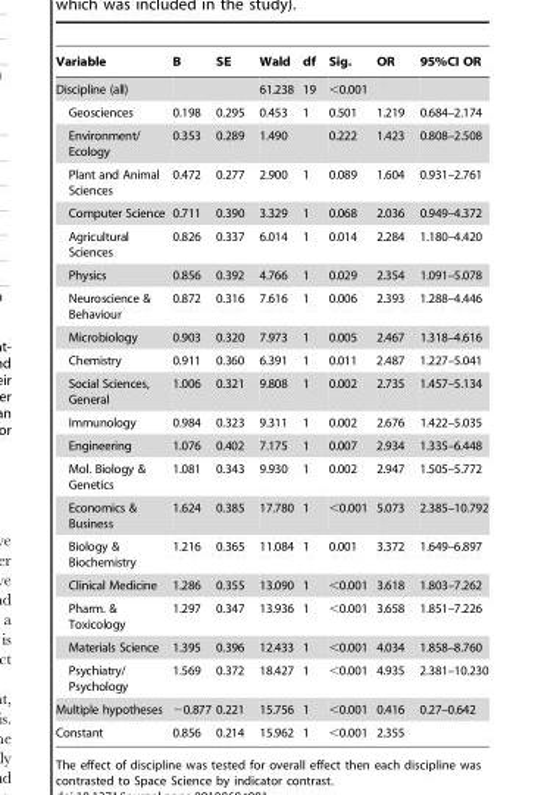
<table><thead><tr><td>Variable</td><td>B</td><td>SE</td><td>Wald</td><td>df</td><td>Sig.</td><td>OR</td><td>95%CI OR</td></tr></thead><tbody><tr><td>Discipline (all)</td><td></td><td></td><td>61.238</td><td>19</td><td>&lt;0.001</td><td></td><td></td></tr><tr><td>Geosciences</td><td>0.198</td><td>0.295</td><td>0.453</td><td>1</td><td>0.501</td><td>1.219</td><td>0.684–2.174</td></tr><tr><td>Environment/ Ecology</td><td>0.353</td><td>0.289</td><td>1.490</td><td></td><td>0.222</td><td>1.423</td><td>0.808–2.508</td></tr><tr><td>Plant and Animal Sciences</td><td>0.472</td><td>0.277</td><td>2.900</td><td>1</td><td>0.089</td><td>1.604</td><td>0.931–2.761</td></tr><tr><td>Computer Science</td><td>0.711</td><td>0.390</td><td>3.329</td><td>1</td><td>0.068</td><td>2.036</td><td>0.949–4.372</td></tr><tr><td>Agricultural Sciences</td><td>0.826</td><td>0.337</td><td>6.014</td><td>1</td><td>0.014</td><td>2.284</td><td>1.180–4.420</td></tr><tr><td>Physics</td><td>0.856</td><td>0.392</td><td>4.766</td><td>1</td><td>0.029</td><td>2.354</td><td>1.091–5.078</td></tr><tr><td>Neuroscience &amp; Behaviour</td><td>0.872</td><td>0.316</td><td>7.616</td><td>1</td><td>0.006</td><td>2.393</td><td>1.288–4.446</td></tr><tr><td>Microbiology</td><td>0.903</td><td>0.320</td><td>7.973</td><td>1</td><td>0.005</td><td>2.467</td><td>1.318–4.616</td></tr><tr><td>Chemistry</td><td>0.911</td><td>0.360</td><td>6.391</td><td>1</td><td>0.011</td><td>2.487</td><td>1.227–5.041</td></tr><tr><td>Social Sciences, General</td><td>1.006</td><td>0.321</td><td>9.808</td><td>1</td><td>0.002</td><td>2.735</td><td>1.457–5.134</td></tr><tr><td>Immunology</td><td>0.984</td><td>0.323</td><td>9.311</td><td>1</td><td>0.002</td><td>2.676</td><td>1.422–5.035</td></tr><tr><td>Engineering</td><td>1.076</td><td>0.402</td><td>7.175</td><td>1</td><td>0.007</td><td>2.934</td><td>1.335–6.448</td></tr><tr><td>Mol. Biology &amp; Genetics</td><td>1.081</td><td>0.343</td><td>9.930</td><td>1</td><td>0.002</td><td>2.947</td><td>1.505–5.772</td></tr><tr><td>Economics &amp; Business</td><td>1.624</td><td>0.385</td><td>17.780</td><td>1</td><td>&lt;0.001</td><td>5.073</td><td>2.385–10.792</td></tr><tr><td>Biology &amp; Biochemistry</td><td>1.216</td><td>0.365</td><td>11.084</td><td>1</td><td>0.001</td><td>3.372</td><td>1.649–6.897</td></tr><tr><td>Clinical Medicine</td><td>1.286</td><td>0.355</td><td>13.090</td><td>1</td><td>&lt;0.001</td><td>3.618</td><td>1.803–7.262</td></tr><tr><td>Pharm. &amp; Toxicology</td><td>1.297</td><td>0.347</td><td>13.936</td><td>1</td><td>&lt;0.001</td><td>3.658</td><td>1.851–7.226</td></tr><tr><td>Materials Science</td><td>1.395</td><td>0.396</td><td>12.433</td><td>1</td><td>&lt;0.001</td><td>4.034</td><td>1.858–8.760</td></tr><tr><td>Psychiatry/ Psychology</td><td>1.569</td><td>0.372</td><td>18.427</td><td>1</td><td>&lt;0.001</td><td>4.935</td><td>2.381–10.230</td></tr><tr><td>Multiple hypotheses</td><td>−0.877</td><td>0.221</td><td>15.756</td><td>1</td><td>&lt;0.001</td><td>0.416</td><td>0.27–0.642</td></tr><tr><td>Constant</td><td>0.856</td><td>0.214</td><td>15.962</td><td>1</td><td>&lt;0.001</td><td>2.355</td><td></td></tr></tbody></table>